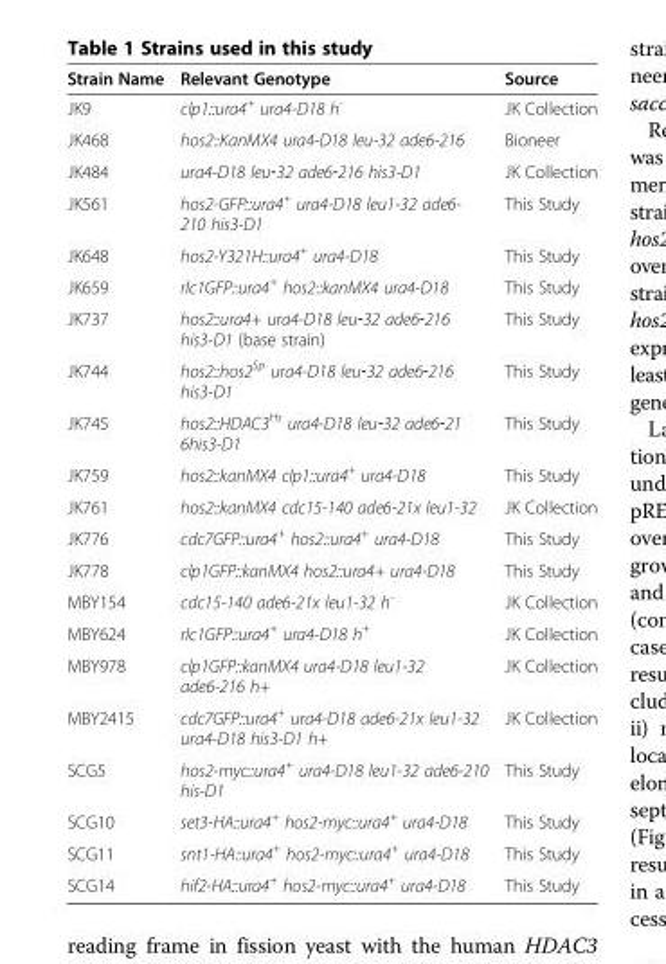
<table><thead><tr><td>Strain Name</td><td>Relevant Genotype</td><td>Source</td></tr></thead><tbody><tr><td>JK9</td><td>clp1::ura4<sup>+</sup> ura4-D18 h<sup>-</sup></td><td>JK Collection</td></tr><tr><td>JK468</td><td>hos2::KanMX4 ura4-D18 leu-32 ade6-216</td><td>Bioneer</td></tr><tr><td>JK484</td><td>ura4-D18 leu‐32 ade6‐216 his3-D1</td><td>JK Collection</td></tr><tr><td>JK561</td><td>hos2-GFP::ura4<sup>+</sup> ura4-D18 leu1-32 ade6- 210 his3-D1</td><td>This Study</td></tr><tr><td>JK648</td><td>hos2-Y321H::ura4<sup>+</sup> ura4-D18</td><td>This Study</td></tr><tr><td>JK659</td><td>rlc1GFP::ura4<sup>+</sup> hos2::kanMX4 ura4-D18</td><td>This Study</td></tr><tr><td>JK737</td><td>hos2::ura4+ ura4-D18 leu‐32 ade6‐216 his3-D1 (base strain)</td><td>This Study</td></tr><tr><td>JK744</td><td>hos2::hos2<sup>Sp</sup> ura4-D18 leu‐32 ade6‐216 his3-D1</td><td>This Study</td></tr><tr><td>JK745</td><td>hos2::HDAC3<sup>Hs</sup> ura4-D18 leu‐32 ade6‐21 6his3-D1</td><td>This Study</td></tr><tr><td>JK759</td><td>hos2::kanMX4 clp1::ura4<sup>+</sup> ura4-D18</td><td>This Study</td></tr><tr><td>JK761</td><td>hos2::kanMX4 cdc15-140 ade6-21x leu1-32</td><td>JK Collection</td></tr><tr><td>JK776</td><td>cdc7GFP::ura4<sup>+</sup> hos2::ura4<sup>+</sup> ura4-D18</td><td>This Study</td></tr><tr><td>JK778</td><td>clp1GFP::kanMX4 hos2::ura4+ ura4-D18</td><td>This Study</td></tr><tr><td>MBY154</td><td>cdc15-140 ade6-21x leu1-32 h<sup>-</sup></td><td>JK Collection</td></tr><tr><td>MBY624</td><td>rlc1GFP::ura4<sup>+</sup> ura4-D18 h<sup>+</sup></td><td>JK Collection</td></tr><tr><td>MBY978</td><td>clp1GFP::kanMX4 ura4-D18 leu1-32 ade6-216 h+</td><td>JK Collection</td></tr><tr><td>MBY2415</td><td>cdc7GFP::ura4<sup>+</sup> ura4-D18 ade6-21x leu1-32 ura4-D18 his3-D1 h+</td><td>JK Collection</td></tr><tr><td>SCG5</td><td>hos2-myc::ura4<sup>+</sup> ura4-D18 leu1-32 ade6-210 his-D1</td><td>This Study</td></tr><tr><td>SCG10</td><td>set3-HA::ura4<sup>+</sup> hos2-myc::ura4<sup>+</sup> ura4-D18</td><td>This Study</td></tr><tr><td>SCG11</td><td>snt1-HA::ura4<sup>+</sup> hos2-myc::ura4<sup>+</sup> ura4-D18</td><td>This Study</td></tr><tr><td>SCG14</td><td>hif2-HA::ura4<sup>+</sup> hos2-myc::ura4<sup>+</sup> ura4-D18</td><td>This Study</td></tr></tbody></table>